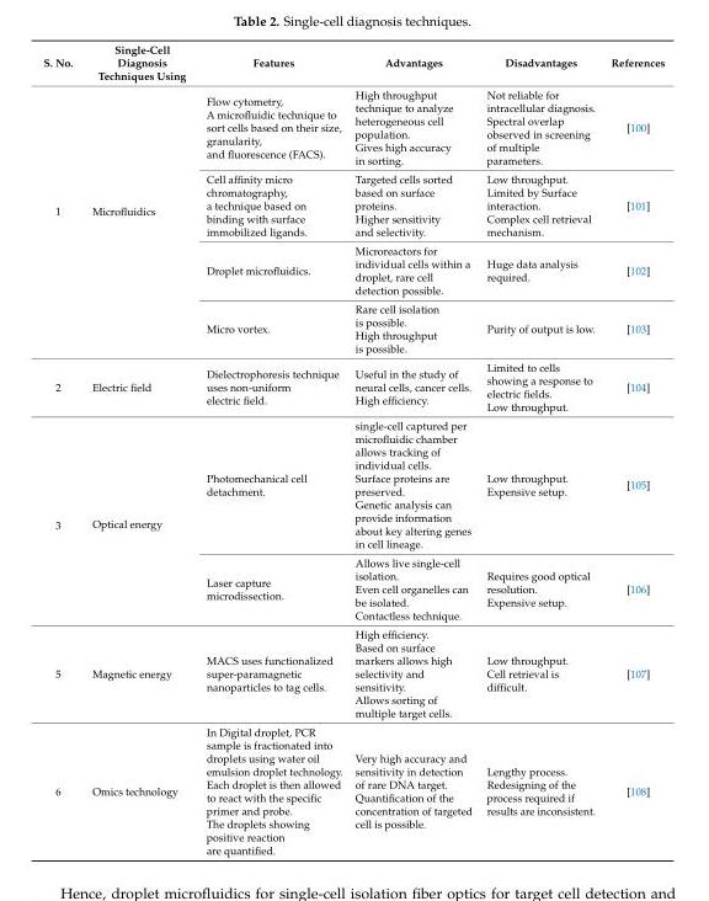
<table><thead><tr><td>S. No.</td><td>Single-Cell Diagnosis Techniques Using</td><td>Features</td><td>Advantages</td><td>Disadvantages</td><td>References</td></tr></thead><tbody><tr><td rowspan="4">1</td><td rowspan="4">Microfluidics</td><td>Flow cytometry, A microfluidic technique to sort cells based on their size, granularity, and fluorescence (FACS).</td><td>High throughput technique to analyze heterogeneous cell population. Gives high accuracy in sorting.</td><td>Not reliable for intracellular diagnosis. Spectral overlap observed in screening of multiple parameters.</td><td>[100]</td></tr><tr><td>Cell affinity micro chromatography, a technique based on binding with surface immobilized ligands.</td><td>Targeted cells sorted based on surface proteins. Higher sensitivity and selectivity.</td><td>Low throughput. Limited by Surface interaction. Complex cell retrieval mechanism.</td><td>[101]</td></tr><tr><td>Droplet microfluidics.</td><td>Microreactors for individual cells within a droplet, rare cell detection possible.</td><td>Huge data analysis required.</td><td>[102]</td></tr><tr><td>Micro vortex.</td><td>Rare cell isolation is possible. High throughput is possible.</td><td>Purity of output is low.</td><td>[103]</td></tr><tr><td>2</td><td>Electric field</td><td>Dielectrophoresis technique uses non-uniform electric field.</td><td>Useful in the study of neural cells, cancer cells. High efficiency.</td><td>Limited to cells showing a response to electric fields. Low throughput.</td><td>[104]</td></tr><tr><td rowspan="2">3</td><td rowspan="2">Optical energy</td><td>Photomechanical cell detachment.</td><td>single-cell captured per microfluidic chamber allows tracking of individual cells. Surface proteins are preserved. Genetic analysis can provide information about key altering genes in cell lineage.</td><td>Low throughput. Expensive setup.</td><td>[105]</td></tr><tr><td>Laser capture microdissection.</td><td>Allows live single-cell isolation. Even cell organelles can be isolated. Contactless technique.</td><td>Requires good optical resolution. Expensive setup.</td><td>[106]</td></tr><tr><td>5</td><td>Magnetic energy</td><td>MACS uses functionalized super-paramagnetic nanoparticles to tag cells.</td><td>High efficiency. Based on surface markers allows high selectivity and sensitivity. Allows sorting of multiple target cells.</td><td>Low throughput. Cell retrieval is difficult.</td><td>[107]</td></tr><tr><td>6</td><td>Omics technology</td><td>In Digital droplet, PCR sample is fractionated into droplets using water oil emulsion droplet technology. Each droplet is then allowed to react with the specific primer and probe. The droplets showing positive reaction are quantified.</td><td>Very high accuracy and sensitivity in detection of rare DNA target. Quantification of the concentration of targeted cell is possible.</td><td>Lengthy process. Redesigning of the process required if results are inconsistent.</td><td>[108]</td></tr></tbody></table>